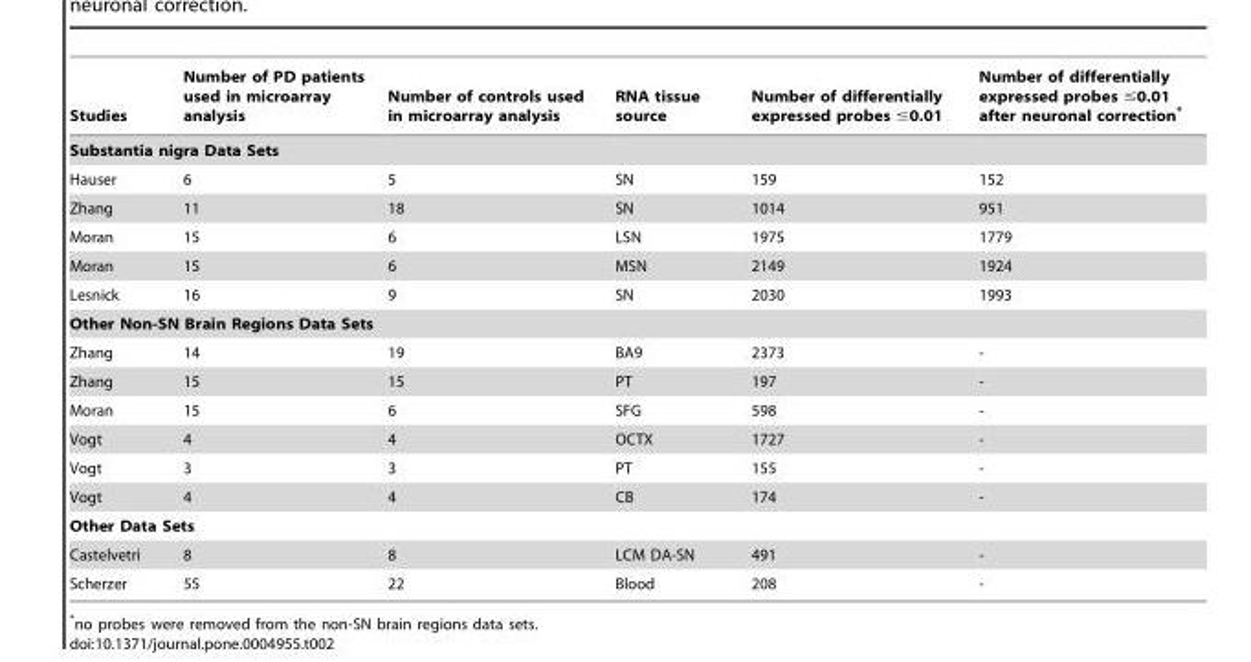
<table><thead><tr><td>Studies</td><td>Number of PD patients used in microarray analysis</td><td>Number of controls used in microarray analysis</td><td>RNA tissue source</td><td>Number of differentially expressed probes ≤0.01</td><td>Number of differentially expressed probes ≤0.01 after neuronal correction*</td></tr></thead><tbody><tr><td colspan="6">Substantia nigra Data Sets</td></tr><tr><td>Hauser</td><td>6</td><td>5</td><td>SN</td><td>159</td><td>152</td></tr><tr><td>Zhang</td><td>11</td><td>18</td><td>SN</td><td>1014</td><td>951</td></tr><tr><td>Moran</td><td>15</td><td>6</td><td>LSN</td><td>1975</td><td>1779</td></tr><tr><td>Moran</td><td>15</td><td>6</td><td>MSN</td><td>2149</td><td>1924</td></tr><tr><td>Lesnick</td><td>16</td><td>9</td><td>SN</td><td>2030</td><td>1993</td></tr><tr><td colspan="6">Other Non-SN Brain Regions Data Sets</td></tr><tr><td>Zhang</td><td>14</td><td>19</td><td>BA9</td><td>2373</td><td>-</td></tr><tr><td>Zhang</td><td>15</td><td>15</td><td>PT</td><td>197</td><td>-</td></tr><tr><td>Moran</td><td>15</td><td>6</td><td>SFG</td><td>598</td><td>-</td></tr><tr><td>Vogt</td><td>4</td><td>4</td><td>OCTX</td><td>1727</td><td>-</td></tr><tr><td>Vogt</td><td>3</td><td>3</td><td>PT</td><td>155</td><td>-</td></tr><tr><td>Vogt</td><td>4</td><td>4</td><td>CB</td><td>174</td><td>-</td></tr><tr><td colspan="6">Other Data Sets</td></tr><tr><td>Castelvetri</td><td>8</td><td>8</td><td>LCM DA-SN</td><td>491</td><td>-</td></tr><tr><td>Scherzer</td><td>55</td><td>22</td><td>Blood</td><td>208</td><td>-</td></tr></tbody></table>